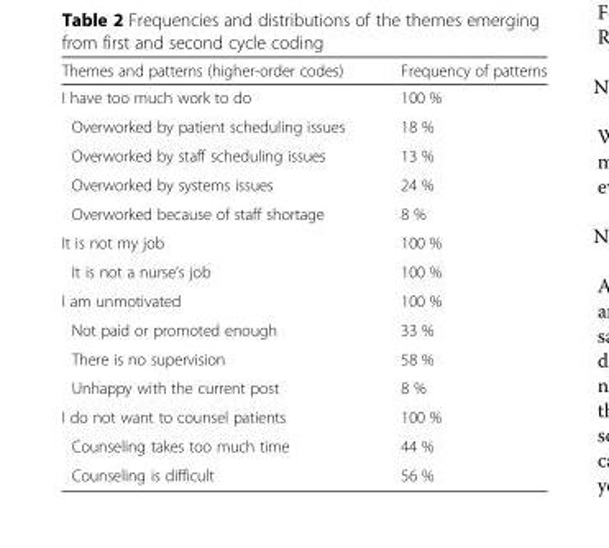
<table><thead><tr><td>Themes and patterns (higher-order codes)</td><td>Frequency of patterns</td></tr></thead><tbody><tr><td>I have too much work to do</td><td>100 %</td></tr><tr><td>Overworked by patient scheduling issues</td><td>18 %</td></tr><tr><td>Overworked by staff scheduling issues</td><td>13 %</td></tr><tr><td>Overworked by systems issues</td><td>24 %</td></tr><tr><td>Overworked because of staff shortage</td><td>8 %</td></tr><tr><td>It is not my job</td><td>100 %</td></tr><tr><td>It is not a nurse’s job</td><td>100 %</td></tr><tr><td>I am unmotivated</td><td>100 %</td></tr><tr><td>Not paid or promoted enough</td><td>33 %</td></tr><tr><td>There is no supervision</td><td>58 %</td></tr><tr><td>Unhappy with the current post</td><td>8 %</td></tr><tr><td>I do not want to counsel patients</td><td>100 %</td></tr><tr><td>Counseling takes too much time</td><td>44 %</td></tr><tr><td>Counseling is difficult</td><td>56 %</td></tr></tbody></table>